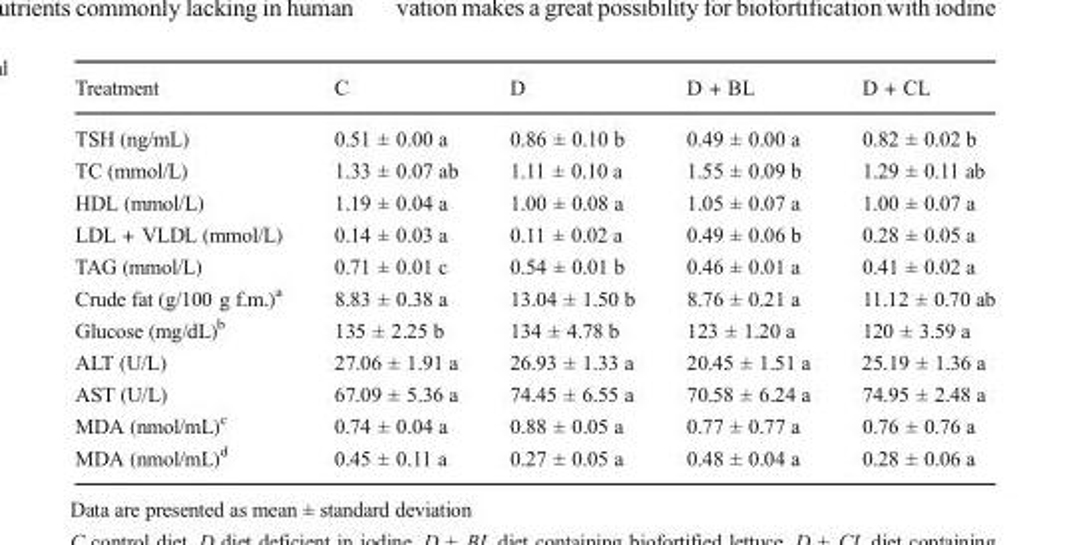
<table><thead><tr><td>Treatment</td><td>C</td><td>D</td><td>D + BL</td><td>D + CL</td></tr></thead><tbody><tr><td>TSH (ng/mL)</td><td>0.51 ± 0.00 a</td><td>0.86 ± 0.10 b</td><td>0.49 ± 0.00 a</td><td>0.82 ± 0.02 b</td></tr><tr><td>TC (mmol/L)</td><td>1.33 ± 0.07 ab</td><td>1.11 ± 0.10 a</td><td>1.55 ± 0.09 b</td><td>1.29 ± 0.11 ab</td></tr><tr><td>HDL (mmol/L)</td><td>1.19 ± 0.04 a</td><td>1.00 ± 0.08 a</td><td>1.05 ± 0.07 a</td><td>1.00 ± 0.07 a</td></tr><tr><td>LDL + VLDL (mmol/L)</td><td>0.14 ± 0.03 a</td><td>0.11 ± 0.02 a</td><td>0.49 ± 0.06 b</td><td>0.28 ± 0.05 a</td></tr><tr><td>TAG (mmol/L)</td><td>0.71 ± 0.01 c</td><td>0.54 ± 0.01 b</td><td>0.46 ± 0.01 a</td><td>0.41 ± 0.02 a</td></tr><tr><td>Crude fat (g/100 g f.m.)<sup>a</sup></td><td>8.83 ± 0.38 a</td><td>13.04 ± 1.50 b</td><td>8.76 ± 0.21 a</td><td>11.12 ± 0.70 ab</td></tr><tr><td>Glucose (mg/dL)<sup>b</sup></td><td>135 ± 2.25 b</td><td>134 ± 4.78 b</td><td>123 ± 1.20 a</td><td>120 ± 3.59 a</td></tr><tr><td>ALT (U/L)</td><td>27.06 ± 1.91 a</td><td>26.93 ± 1.33 a</td><td>20.45 ± 1.51 a</td><td>25.19 ± 1.36 a</td></tr><tr><td>AST (U/L)</td><td>67.09 ± 5.36 a</td><td>74.45 ± 6.55 a</td><td>70.58 ± 6.24 a</td><td>74.95 ± 2.48 a</td></tr><tr><td>MDA (nmol/mL)<sup>c</sup></td><td>0.74 ± 0.04 a</td><td>0.88 ± 0.05 a</td><td>0.77 ± 0.77 a</td><td>0.76 ± 0.76 a</td></tr><tr><td>MDA (nmol/mL)<sup>d</sup></td><td>0.45 ± 0.11 a</td><td>0.27 ± 0.05 a</td><td>0.48 ± 0.04 a</td><td>0.28 ± 0.06 a</td></tr></tbody></table>